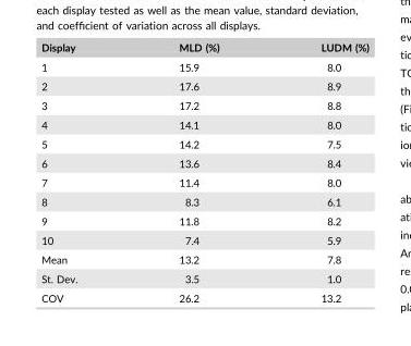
<table><thead><tr><td>Display</td><td>MLD (%)</td><td>LUDM (%)</td></tr></thead><tbody><tr><td>1</td><td>15.9</td><td>8.0</td></tr><tr><td>2</td><td>17.6</td><td>8.9</td></tr><tr><td>3</td><td>17.2</td><td>8.8</td></tr><tr><td>4</td><td>14.1</td><td>8.0</td></tr><tr><td>5</td><td>14.2</td><td>7.5</td></tr><tr><td>6</td><td>13.6</td><td>8.4</td></tr><tr><td>7</td><td>11.4</td><td>8.0</td></tr><tr><td>8</td><td>8.3</td><td>6.1</td></tr><tr><td>9</td><td>11.8</td><td>8.2</td></tr><tr><td>10</td><td>7.4</td><td>5.9</td></tr><tr><td>Mean</td><td>13.2</td><td>7.8</td></tr><tr><td>St. Dev.</td><td>3.5</td><td>1.0</td></tr><tr><td>COV</td><td>26.2</td><td>13.2</td></tr></tbody></table>